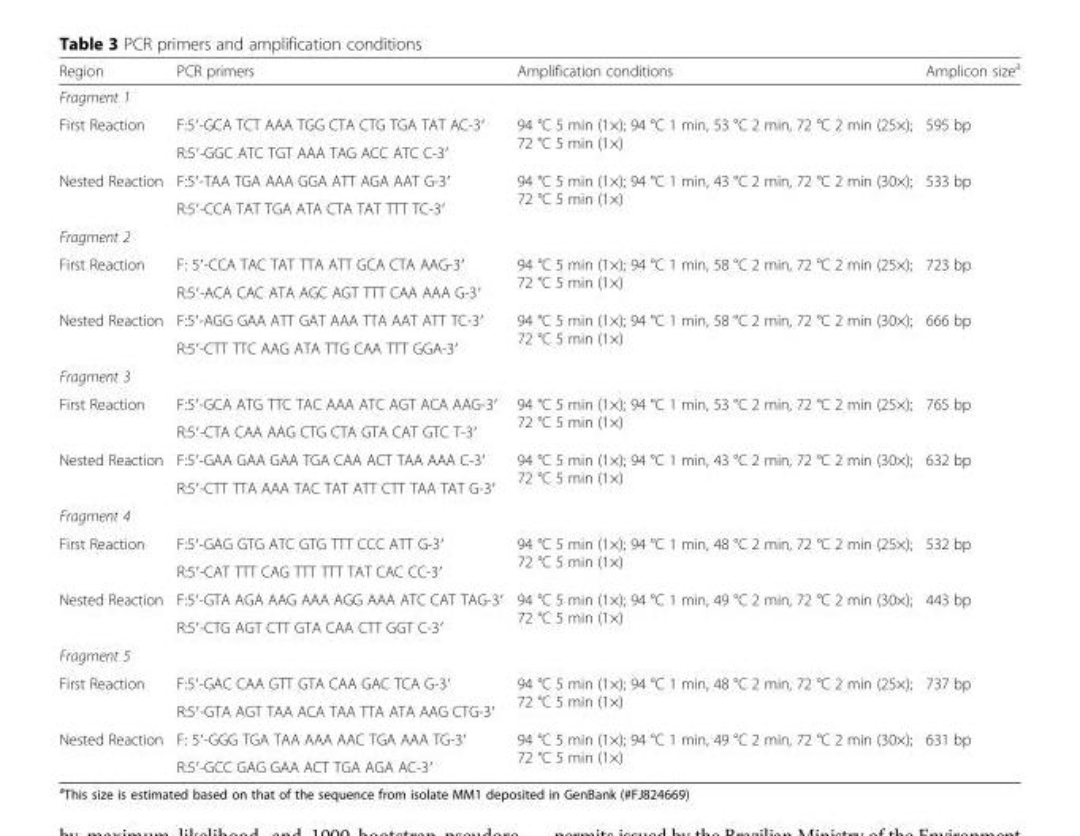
<table><thead><tr><td>Region</td><td>PCR primers</td><td>Amplification conditions</td><td>Amplicon size<sup>a</sup></td></tr></thead><tbody><tr><td colspan="4">Fragment 1</td></tr><tr><td rowspan="2">First Reaction</td><td>F:5′-GCA TCT AAA TGG CTA CTG TGA TAT AC-3′</td><td rowspan="2">94 °C 5 min (1×); 94 °C 1 min, 53 °C 2 min, 72 °C 2 min (25×); 72 °C 5 min (1×)</td><td rowspan="2">595 bp</td></tr><tr><td>R:5′-GGC ATC TGT AAA TAG ACC ATC C-3′</td></tr><tr><td rowspan="2">Nested Reaction</td><td>F:5′-TAA TGA AAA GGA ATT AGA AAT G-3′</td><td rowspan="2">94 °C 5 min (1×); 94 °C 1 min, 43 °C 2 min, 72 °C 2 min (30×); 72 °C 5 min (1×)</td><td rowspan="2">533 bp</td></tr><tr><td>R:5′-CCA TAT TGA ATA CTA TAT TTT TC-3′</td></tr><tr><td colspan="4">Fragment 2</td></tr><tr><td rowspan="2">First Reaction</td><td>F: 5′-CCA TAC TAT TTA ATT GCA CTA AAG-3′</td><td rowspan="2">94 °C 5 min (1×); 94 °C 1 min, 58 °C 2 min, 72 °C 2 min (25×); 72 °C 5 min (1×)</td><td rowspan="2">723 bp</td></tr><tr><td>R:5′-ACA CAC ATA AGC AGT TTT CAA AAA G-3′</td></tr><tr><td rowspan="2">Nested Reaction</td><td>F:5′-AGG GAA ATT GAT AAA TTA AAT ATT TC-3′</td><td rowspan="2">94 °C 5 min (1×); 94 °C 1 min, 58 °C 2 min, 72 °C 2 min (30×); 72 °C 5 min (1×)</td><td rowspan="2">666 bp</td></tr><tr><td>R:5′-CTT TTC AAG ATA TTG CAA TTT GGA-3′</td></tr><tr><td colspan="4">Fragment 3</td></tr><tr><td rowspan="2">First Reaction</td><td>F:5′-GCA ATG TTC TAC AAA ATC AGT ACA AAG-3′</td><td rowspan="2">94 °C 5 min (1×); 94 °C 1 min, 53 °C 2 min, 72 °C 2 min (25×); 72 °C 5 min (1×)</td><td rowspan="2">765 bp</td></tr><tr><td>R:5′-CTA CAA AAG CTG CTA GTA CAT GTC T-3′</td></tr><tr><td rowspan="2">Nested Reaction</td><td>F:5′-GAA GAA GAA TGA CAA ACT TAA AAA C-3′</td><td rowspan="2">94 °C 5 min (1×); 94 °C 1 min, 43 °C 2 min, 72 °C 2 min (30×); 72 °C 5 min (1×)</td><td rowspan="2">632 bp</td></tr><tr><td>R:5′-CTT TTA AAA TAC TAT ATT CTT TAA TAT G-3′</td></tr><tr><td colspan="4">Fragment 4</td></tr><tr><td rowspan="2">First Reaction</td><td>F:5′-GAG GTG ATC GTG TTT CCC ATT G-3′</td><td rowspan="2">94 °C 5 min (1×); 94 °C 1 min, 48 °C 2 min, 72 °C 2 min (25×); 72 °C 5 min (1×)</td><td rowspan="2">532 bp</td></tr><tr><td>R:5′-CAT TTT CAG TTT TTT TAT CAC CC-3′</td></tr><tr><td rowspan="2">Nested Reaction</td><td>F:5′-GTA AGA AAG AAA AGG AAA ATC CAT TAG-3′</td><td rowspan="2">94 °C 5 min (1×); 94 °C 1 min, 49 °C 2 min, 72 °C 2 min (30×); 72 °C 5 min (1×)</td><td rowspan="2">443 bp</td></tr><tr><td>R:5′-CTG AGT CTT GTA CAA CTT GGT C-3′</td></tr><tr><td colspan="4">Fragment 5</td></tr><tr><td rowspan="2">First Reaction</td><td>F:5′-GAC CAA GTT GTA CAA GAC TCA G-3′</td><td rowspan="2">94 °C 5 min (1×); 94 °C 1 min, 48 °C 2 min, 72 °C 2 min (25×); 72 °C 5 min (1×)</td><td rowspan="2">737 bp</td></tr><tr><td>R:5′-GTA AGT TAA ACA TAA TTA ATA AAG CTG-3′</td></tr><tr><td rowspan="2">Nested Reaction</td><td>F: 5′-GGG TGA TAA AAA AAC TGA AAA TG-3′</td><td rowspan="2">94 °C 5 min (1×); 94 °C 1 min, 49 °C 2 min, 72 °C 2 min (30×); 72 °C 5 min (1×)</td><td rowspan="2">631 bp</td></tr><tr><td>R:5′-GCC GAG GAA ACT TGA AGA AC-3′</td></tr></tbody></table>